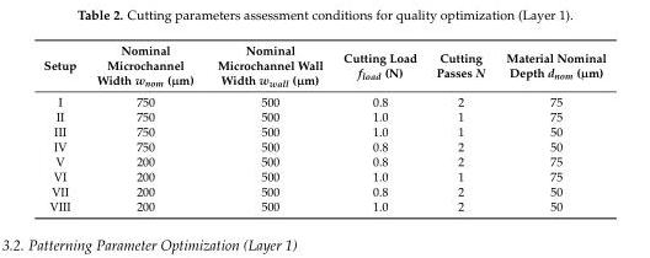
<table><thead><tr><td>Setup</td><td>Nominal Microchannel Width w<sub>nom</sub> (µm)</td><td>Nominal Microchannel Wall Width w<sub>wall</sub> (µm)</td><td>Cutting Load f<sub>load</sub> (N)</td><td>Cutting Passes N</td><td>Material Nominal Depth d<sub>nom</sub> (µm)</td></tr></thead><tbody><tr><td>I</td><td>750</td><td>500</td><td>0.8</td><td>2</td><td>75</td></tr><tr><td>II</td><td>750</td><td>500</td><td>1.0</td><td>1</td><td>75</td></tr><tr><td>III</td><td>750</td><td>500</td><td>1.0</td><td>1</td><td>50</td></tr><tr><td>IV</td><td>750</td><td>500</td><td>0.8</td><td>2</td><td>50</td></tr><tr><td>V</td><td>200</td><td>500</td><td>0.8</td><td>2</td><td>75</td></tr><tr><td>VI</td><td>200</td><td>500</td><td>1.0</td><td>1</td><td>75</td></tr><tr><td>VII</td><td>200</td><td>500</td><td>0.8</td><td>2</td><td>50</td></tr><tr><td>VIII</td><td>200</td><td>500</td><td>1.0</td><td>2</td><td>50</td></tr></tbody></table>